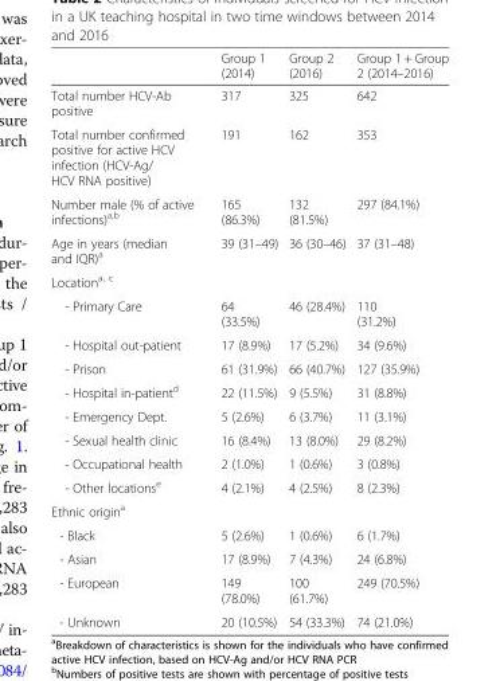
<table><thead><tr><td></td><td>Group 1 (2014)</td><td>Group 2 (2016)</td><td>Group 1 + Group 2 (2014–2016)</td></tr></thead><tbody><tr><td>Total number HCV-Ab positive</td><td>317</td><td>325</td><td>642</td></tr><tr><td>Total number confirmed positive for active HCV infection (HCV-Ag/ HCV RNA positive)</td><td>191</td><td>162</td><td>353</td></tr><tr><td>Number male (% of active infections)<sup>a,b</sup></td><td>165 (86.3%)</td><td>132 (81.5%)</td><td>297 (84.1%)</td></tr><tr><td>Age in years (median and IQR)<sup>a</sup></td><td>39 (31–49)</td><td>36 (30–46)</td><td>37 (31–48)</td></tr><tr><td colspan="4">Location<sup>a, c</sup></td></tr><tr><td>- Primary Care</td><td>64 (33.5%)</td><td>46 (28.4%)</td><td>110 (31.2%)</td></tr><tr><td>- Hospital out-patient</td><td>17 (8.9%)</td><td>17 (5.2%)</td><td>34 (9.6%)</td></tr><tr><td>- Prison</td><td>61 (31.9%)</td><td>66 (40.7%)</td><td>127 (35.9%)</td></tr><tr><td>- Hospital in-patient<sup>d</sup></td><td>22 (11.5%)</td><td>9 (5.5%)</td><td>31 (8.8%)</td></tr><tr><td>- Emergency Dept.</td><td>5 (2.6%)</td><td>6 (3.7%)</td><td>11 (3.1%)</td></tr><tr><td>- Sexual health clinic</td><td>16 (8.4%)</td><td>13 (8.0%)</td><td>29 (8.2%)</td></tr><tr><td>- Occupational health</td><td>2 (1.0%)</td><td>1 (0.6%)</td><td>3 (0.8%)</td></tr><tr><td>- Other locations<sup>e</sup></td><td>4 (2.1%)</td><td>4 (2.5%)</td><td>8 (2.3%)</td></tr><tr><td colspan="4">Ethnic origin<sup>a</sup></td></tr><tr><td>- Black</td><td>5 (2.6%)</td><td>1 (0.6%)</td><td>6 (1.7%)</td></tr><tr><td>- Asian</td><td>17 (8.9%)</td><td>7 (4.3%)</td><td>24 (6.8%)</td></tr><tr><td>- European</td><td>149 (78.0%)</td><td>100 (61.7%)</td><td>249 (70.5%)</td></tr><tr><td>- Unknown</td><td>20 (10.5%)</td><td>54 (33.3%)</td><td>74 (21.0%)</td></tr></tbody></table>